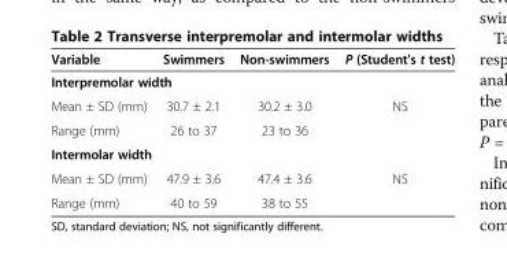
<table><thead><tr><td>Variable</td><td>Swimmers</td><td>Non-swimmers</td><td>P (Student&#x27;s t test)</td></tr></thead><tbody><tr><td colspan="4">Interpremolar width</td></tr><tr><td>Mean ± SD (mm)</td><td>30.7 ± 2.1</td><td>30.2 ± 3.0</td><td>NS</td></tr><tr><td>Range (mm)</td><td>26 to 37</td><td>23 to 36</td><td></td></tr><tr><td colspan="4">Intermolar width</td></tr><tr><td>Mean ± SD (mm)</td><td>47.9 ± 3.6</td><td>47.4 ± 3.6</td><td>NS</td></tr><tr><td>Range (mm)</td><td>40 to 59</td><td>38 to 55</td><td></td></tr></tbody></table>